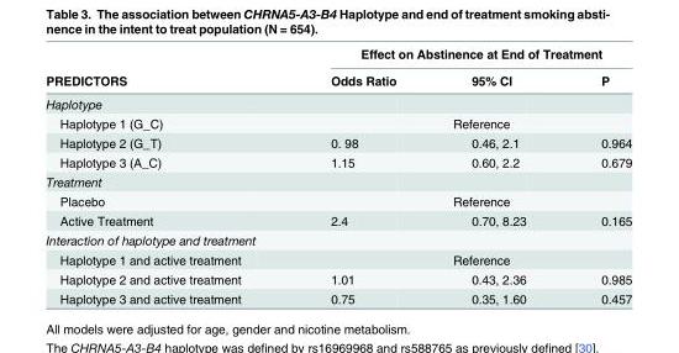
<table><thead><tr><td rowspan="2">PREDICTORS</td><td colspan="3">Effect on Abstinence at End of Treatment</td></tr><tr><td>Odds Ratio</td><td>95% CI</td><td>P</td></tr></thead><tbody><tr><td colspan="4">Haplotype</td></tr><tr><td>Haplotype 1 (G_C)</td><td colspan="3">Reference</td></tr><tr><td>Haplotype 2 (G_T)</td><td>0. 98</td><td>0.46, 2.1</td><td>0.964</td></tr><tr><td>Haplotype 3 (A_C)</td><td>1.15</td><td>0.60, 2.2</td><td>0.679</td></tr><tr><td colspan="4">Treatment</td></tr><tr><td>Placebo</td><td colspan="3">Reference</td></tr><tr><td>Active Treatment</td><td>2.4</td><td>0.70, 8.23</td><td>0.165</td></tr><tr><td colspan="4">Interaction of haplotype and treatment</td></tr><tr><td>Haplotype 1 and active treatment</td><td colspan="3">Reference</td></tr><tr><td>Haplotype 2 and active treatment</td><td>1.01</td><td>0.43, 2.36</td><td>0.985</td></tr><tr><td>Haplotype 3 and active treatment</td><td>0.75</td><td>0.35, 1.60</td><td>0.457</td></tr></tbody></table>